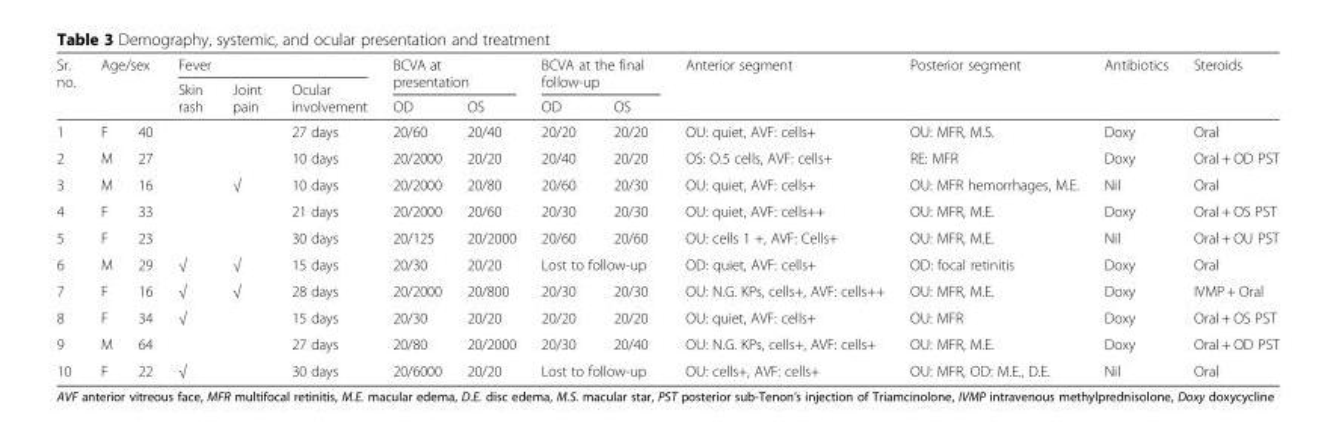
<table><thead><tr><td rowspan="4">Sr. no. 1</td><td rowspan="3" colspan="2">Age/sex</td><td colspan="3">Fever</td><td rowspan="2" colspan="2">BCVA at presentation</td><td rowspan="2" colspan="2">BCVA at the final follow-up</td><td rowspan="4">Anterior segment OU: quiet, AVF: cells+</td><td rowspan="4">Posterior segment OU: MFR, M.S.</td><td rowspan="4">Antibiotics Doxy</td><td rowspan="4">Steroids Oral</td></tr><tr><td rowspan="3">Skin rash</td><td rowspan="3">Joint pain</td><td rowspan="3">Ocular involvement 27 days</td></tr><tr><td rowspan="2">OD 20/60</td><td rowspan="2">OS 20/40</td><td rowspan="2">OD 20/20</td><td rowspan="2">OS 20/20</td></tr><tr><td>F</td><td>40</td></tr></thead><tbody><tr><td>2</td><td>M</td><td>27</td><td></td><td></td><td>10 days</td><td>20/2000</td><td>20/20</td><td>20/40</td><td>20/20</td><td>OS: O.5 cells, AVF: cells+</td><td>RE: MFR</td><td>Doxy</td><td>Oral + OD PST</td></tr><tr><td>3</td><td>M</td><td>16</td><td></td><td>√</td><td>10 days</td><td>20/2000</td><td>20/80</td><td>20/60</td><td>20/30</td><td>OU: quiet, AVF: cells+</td><td>OU: MFR hemorrhages, M.E.</td><td>Nil</td><td>Oral</td></tr><tr><td>4</td><td>F</td><td>33</td><td></td><td></td><td>21 days</td><td>20/2000</td><td>20/60</td><td>20/30</td><td>20/30</td><td>OU: quiet, AVF: cells++</td><td>OU: MFR, M.E.</td><td>Doxy</td><td>Oral + OS PST</td></tr><tr><td>5</td><td>F</td><td>23</td><td></td><td></td><td>30 days</td><td>20/125</td><td>20/2000</td><td>20/60</td><td>20/60</td><td>OU: cells 1 +, AVF: Cells+</td><td>OU: MFR, M.E.</td><td>Nil</td><td>Oral + OU PST</td></tr><tr><td>6</td><td>M</td><td>29</td><td>√</td><td>√</td><td>15 days</td><td>20/30</td><td>20/20</td><td colspan="2">Lost to follow-up</td><td>OD: quiet, AVF: cells+</td><td>OD: focal retinitis</td><td>Doxy</td><td>Oral</td></tr><tr><td>7</td><td>F</td><td>16</td><td>√</td><td>√</td><td>28 days</td><td>20/2000</td><td>20/800</td><td>20/30</td><td>20/30</td><td>OU: N.G. KPs, cells+, AVF: cells++</td><td>OU: MFR, M.E.</td><td>Doxy</td><td>IVMP + Oral</td></tr><tr><td>8</td><td>F</td><td>34</td><td>√</td><td></td><td>15 days</td><td>20/30</td><td>20/20</td><td>20/20</td><td>20/20</td><td>OU: quiet, AVF: cells+</td><td>OU: MFR</td><td>Doxy</td><td>Oral + OS PST</td></tr><tr><td>9</td><td>M</td><td>64</td><td></td><td></td><td>27 days</td><td>20/80</td><td>20/2000</td><td>20/30</td><td>20/40</td><td>OU: N.G. KPs, cells+, AVF: cells+</td><td>OU: MFR, M.E.</td><td>Doxy</td><td>Oral + OD PST</td></tr><tr><td>10</td><td>F</td><td>22</td><td>√</td><td></td><td>30 days</td><td>20/6000</td><td>20/20</td><td colspan="2">Lost to follow-up</td><td>OU: cells+, AVF: cells+</td><td>OU: MFR, OD: M.E., D.E.</td><td>Nil</td><td>Oral</td></tr></tbody></table>